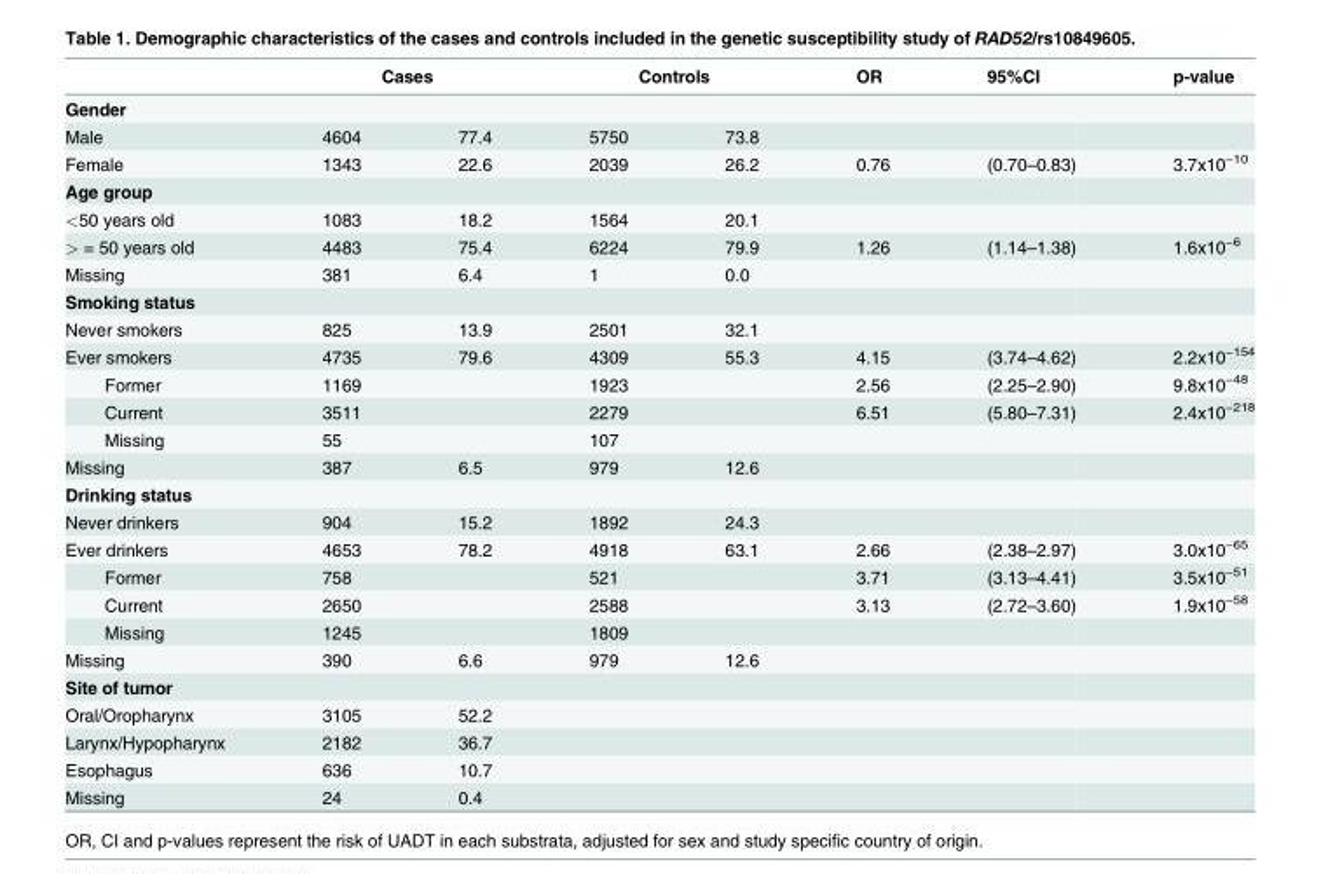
<table><thead><tr><td rowspan="2">Gender</td><td colspan="2">Cases</td><td colspan="2">Controls</td><td rowspan="2">OR</td><td rowspan="2">95%CI</td><td rowspan="2">p-value</td></tr><tr><td></td><td></td><td></td><td></td></tr></thead><tbody><tr><td>Male</td><td>4604</td><td>77.4</td><td>5750</td><td>73.8</td><td></td><td></td><td></td></tr><tr><td>Female</td><td>1343</td><td>22.6</td><td>2039</td><td>26.2</td><td>0.76</td><td>(0.70–0.83)</td><td>3.7x10<sup>−10</sup></td></tr><tr><td colspan="8">Age group</td></tr><tr><td>&lt;50 years old</td><td>1083</td><td>18.2</td><td>1564</td><td>20.1</td><td></td><td></td><td></td></tr><tr><td>&gt; = 50 years old</td><td>4483</td><td>75.4</td><td>6224</td><td>79.9</td><td>1.26</td><td>(1.14–1.38)</td><td>1.6x10<sup>−6</sup></td></tr><tr><td>Missing</td><td>381</td><td>6.4</td><td>1</td><td>0.0</td><td></td><td></td><td></td></tr><tr><td colspan="8">Smoking status</td></tr><tr><td>Never smokers</td><td>825</td><td>13.9</td><td>2501</td><td>32.1</td><td></td><td></td><td></td></tr><tr><td>Ever smokers</td><td>4735</td><td>79.6</td><td>4309</td><td>55.3</td><td>4.15</td><td>(3.74–4.62)</td><td>2.2x10<sup>−154</sup></td></tr><tr><td>Former</td><td>1169</td><td></td><td>1923</td><td></td><td>2.56</td><td>(2.25–2.90)</td><td>9.8x10<sup>−48</sup></td></tr><tr><td>Current</td><td>3511</td><td></td><td>2279</td><td></td><td>6.51</td><td>(5.80–7.31)</td><td>2.4x10<sup>−218</sup></td></tr><tr><td>Missing</td><td>55</td><td></td><td>107</td><td></td><td></td><td></td><td></td></tr><tr><td>Missing</td><td>387</td><td>6.5</td><td>979</td><td>12.6</td><td></td><td></td><td></td></tr><tr><td colspan="8">Drinking status</td></tr><tr><td>Never drinkers</td><td>904</td><td>15.2</td><td>1892</td><td>24.3</td><td></td><td></td><td></td></tr><tr><td>Ever drinkers</td><td>4653</td><td>78.2</td><td>4918</td><td>63.1</td><td>2.66</td><td>(2.38–2.97)</td><td>3.0x10<sup>−65</sup></td></tr><tr><td>Former</td><td>758</td><td></td><td>521</td><td></td><td>3.71</td><td>(3.13–4.41)</td><td>3.5x10<sup>−51</sup></td></tr><tr><td>Current</td><td>2650</td><td></td><td>2588</td><td></td><td>3.13</td><td>(2.72–3.60)</td><td>1.9x10<sup>−58</sup></td></tr><tr><td>Missing</td><td>1245</td><td></td><td>1809</td><td></td><td></td><td></td><td></td></tr><tr><td>Missing</td><td>390</td><td>6.6</td><td>979</td><td>12.6</td><td></td><td></td><td></td></tr><tr><td colspan="8">Site of tumor</td></tr><tr><td>Oral/Oropharynx</td><td>3105</td><td>52.2</td><td></td><td></td><td></td><td></td><td></td></tr><tr><td>Larynx/Hypopharynx</td><td>2182</td><td>36.7</td><td></td><td></td><td></td><td></td><td></td></tr><tr><td>Esophagus</td><td>636</td><td>10.7</td><td></td><td></td><td></td><td></td><td></td></tr><tr><td>Missing</td><td>24</td><td>0.4</td><td></td><td></td><td></td><td></td><td></td></tr></tbody></table>